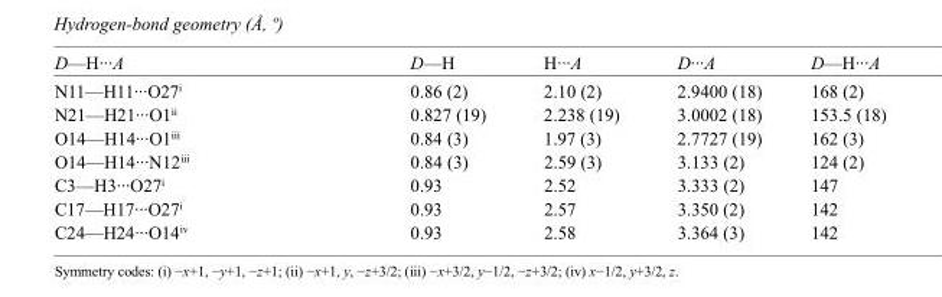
<table><tbody><tr><td>D—H···A</td><td>D—H</td><td>H···A</td><td>D···A</td><td>D—H···A</td></tr><tr><td>N11—H11···O27<sup>i</sup></td><td>0.86 (2)</td><td>2.10 (2)</td><td>2.9400 (18)</td><td>168 (2)</td></tr><tr><td>N21—H21···O1<sup>ii</sup></td><td>0.827 (19)</td><td>2.238 (19)</td><td>3.0002 (18)</td><td>153.5 (18)</td></tr><tr><td>O14—H14···O1<sup>iii</sup></td><td>0.84 (3)</td><td>1.97 (3)</td><td>2.7727 (19)</td><td>162 (3)</td></tr><tr><td>O14—H14···N12<sup>iii</sup></td><td>0.84 (3)</td><td>2.59 (3)</td><td>3.133 (2)</td><td>124 (2)</td></tr><tr><td>C3—H3···O27<sup>i</sup></td><td>0.93</td><td>2.52</td><td>3.333 (2)</td><td>147</td></tr><tr><td>C17—H17···O27<sup>i</sup></td><td>0.93</td><td>2.57</td><td>3.350 (2)</td><td>142</td></tr><tr><td>C24—H24···O14<sup>iv</sup></td><td>0.93</td><td>2.58</td><td>3.364 (3)</td><td>142</td></tr></tbody></table>